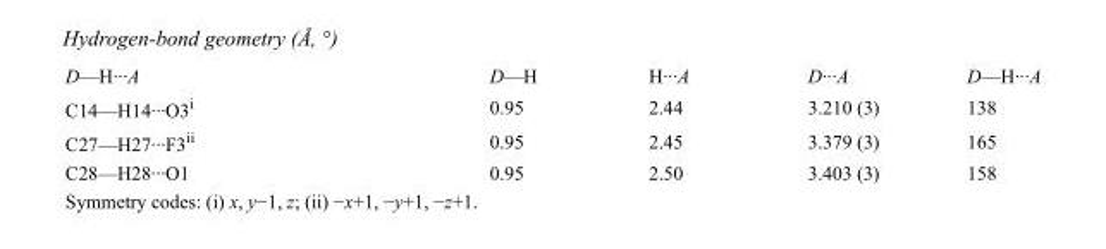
<table><tbody><tr><td>D—H···A</td><td>D—H</td><td>H···A</td><td>D···A</td><td>D—H···A</td></tr><tr><td>C14—H14···O3<sup>i</sup></td><td>0.95</td><td>2.44</td><td>3.210 (3)</td><td>138</td></tr><tr><td>C27—H27···F3<sup>ii</sup></td><td>0.95</td><td>2.45</td><td>3.379 (3)</td><td>165</td></tr><tr><td>C28—H28···O1</td><td>0.95</td><td>2.50</td><td>3.403 (3)</td><td>158</td></tr></tbody></table>